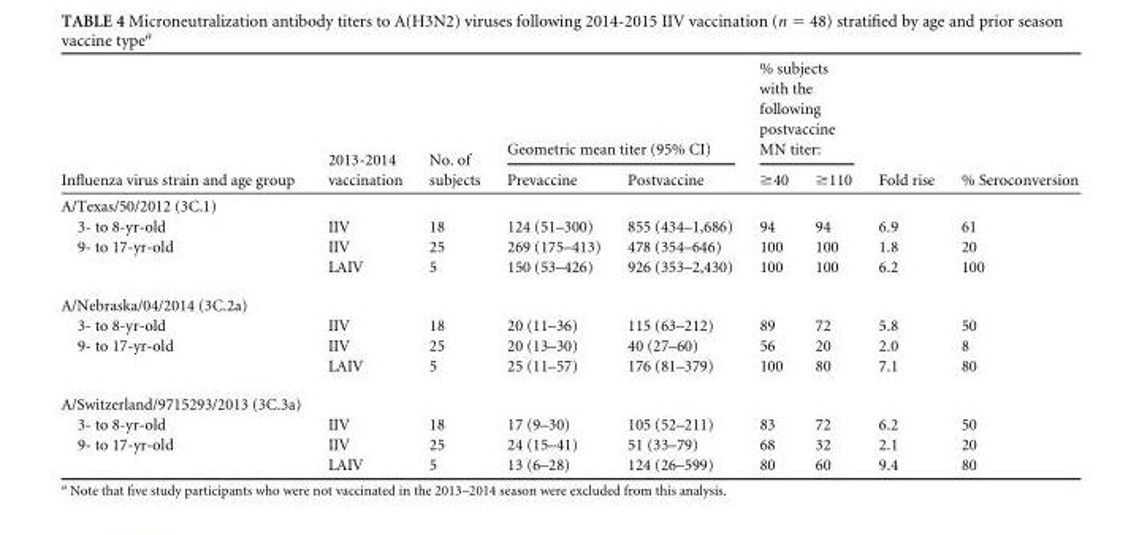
<table><thead><tr><td rowspan="2">Influenza virus strain and age group</td><td rowspan="2">2013-2014 vaccination</td><td rowspan="2">No. of subjects</td><td colspan="2">Geometric mean titer (95% CI)</td><td colspan="2">% subjects with the following postvaccine MN titer:</td><td rowspan="2">Fold rise</td><td rowspan="2">% Seroconversion</td></tr><tr><td>Prevaccine</td><td>Postvaccine</td><td>≥40</td><td>≥110</td></tr></thead><tbody><tr><td colspan="9">A/Texas/50/2012 (3C.1)</td></tr><tr><td>3- to 8-yr-old</td><td>IIV</td><td>18</td><td>124 (51–300)</td><td>855 (434–1,686)</td><td>94</td><td>94</td><td>6.9</td><td>61</td></tr><tr><td rowspan="2">9- to 17-yr-old</td><td>IIV</td><td>25</td><td>269 (175–413)</td><td>478 (354–646)</td><td>100</td><td>100</td><td>1.8</td><td>20</td></tr><tr><td>LAIV</td><td>5</td><td>150 (53–426)</td><td>926 (353–2,430)</td><td>100</td><td>100</td><td>6.2</td><td>100</td></tr><tr><td colspan="9">A/Nebraska/04/2014 (3C.2a)</td></tr><tr><td>3- to 8-yr-old</td><td>IIV</td><td>18</td><td>20 (11–36)</td><td>115 (63–212)</td><td>89</td><td>72</td><td>5.8</td><td>50</td></tr><tr><td rowspan="2">9- to 17-yr-old</td><td>IIV</td><td>25</td><td>20 (13–30)</td><td>40 (27–60)</td><td>56</td><td>20</td><td>2.0</td><td>8</td></tr><tr><td>LAIV</td><td>5</td><td>25 (11–57)</td><td>176 (81–379)</td><td>100</td><td>80</td><td>7.1</td><td>80</td></tr><tr><td colspan="9">A/Switzerland/9715293/2013 (3C.3a)</td></tr><tr><td>3- to 8-yr-old</td><td>IIV</td><td>18</td><td>17 (9–30)</td><td>105 (52–211)</td><td>83</td><td>72</td><td>6.2</td><td>50</td></tr><tr><td rowspan="2">9- to 17-yr-old</td><td>IIV</td><td>25</td><td>24 (15–41)</td><td>51 (33–79)</td><td>68</td><td>32</td><td>2.1</td><td>20</td></tr><tr><td>LAIV</td><td>5</td><td>13 (6–28)</td><td>124 (26–599)</td><td>80</td><td>60</td><td>9.4</td><td>80</td></tr></tbody></table>